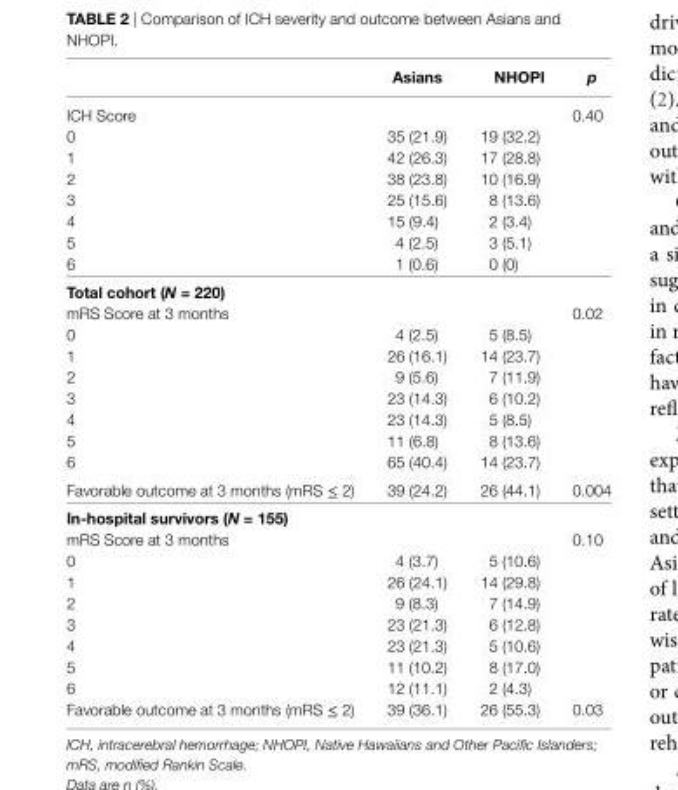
<table><thead><tr><td></td><td>asians</td><td>nhOPi</td><td>p</td></tr></thead><tbody><tr><td>ICH Score</td><td></td><td></td><td>0.40</td></tr><tr><td>0</td><td>35 (21.9)</td><td>19 (32.2)</td><td></td></tr><tr><td>1</td><td>42 (26.3)</td><td>17 (28.8)</td><td></td></tr><tr><td>2</td><td>38 (23.8)</td><td>10 (16.9)</td><td></td></tr><tr><td>3</td><td>25 (15.6)</td><td>8 (13.6)</td><td></td></tr><tr><td>4</td><td>15 (9.4)</td><td>2 (3.4)</td><td></td></tr><tr><td>5</td><td>4 (2.5)</td><td>3 (5.1)</td><td></td></tr><tr><td>6</td><td>1 (0.6)</td><td>0 (0)</td><td></td></tr><tr><td colspan="4">Total cohort (N = 220)</td></tr><tr><td>mRS Score at 3 months</td><td></td><td></td><td>0.02</td></tr><tr><td>0</td><td>4 (2.5)</td><td>5 (8.5)</td><td></td></tr><tr><td>1</td><td>26 (16.1)</td><td>14 (23.7)</td><td></td></tr><tr><td>2</td><td>9 (5.6)</td><td>7 (11.9)</td><td></td></tr><tr><td>3</td><td>23 (14.3)</td><td>6 (10.2)</td><td></td></tr><tr><td>4</td><td>23 (14.3)</td><td>5 (8.5)</td><td></td></tr><tr><td>5</td><td>11 (6.8)</td><td>8 (13.6)</td><td></td></tr><tr><td>6</td><td>65 (40.4)</td><td>14 (23.7)</td><td></td></tr><tr><td>Favorable outcome at 3 months (mRS ≤ 2)</td><td>39 (24.2)</td><td>26 (44.1)</td><td>0.004</td></tr><tr><td colspan="4">in-hospital survivors (N = 155)</td></tr><tr><td>mRS Score at 3 months</td><td></td><td></td><td>0.10</td></tr><tr><td>0</td><td>4 (3.7)</td><td>5 (10.6)</td><td></td></tr><tr><td>1</td><td>26 (24.1)</td><td>14 (29.8)</td><td></td></tr><tr><td>2</td><td>9 (8.3)</td><td>7 (14.9)</td><td></td></tr><tr><td>3</td><td>23 (21.3)</td><td>6 (12.8)</td><td></td></tr><tr><td>4</td><td>23 (21.3)</td><td>5 (10.6)</td><td></td></tr><tr><td>5</td><td>11 (10.2)</td><td>8 (17.0)</td><td></td></tr><tr><td>6</td><td>12 (11.1)</td><td>2 (4.3)</td><td></td></tr><tr><td>Favorable outcome at 3 months (mRS ≤ 2)</td><td>39 (36.1)</td><td>26 (55.3)</td><td>0.03</td></tr></tbody></table>